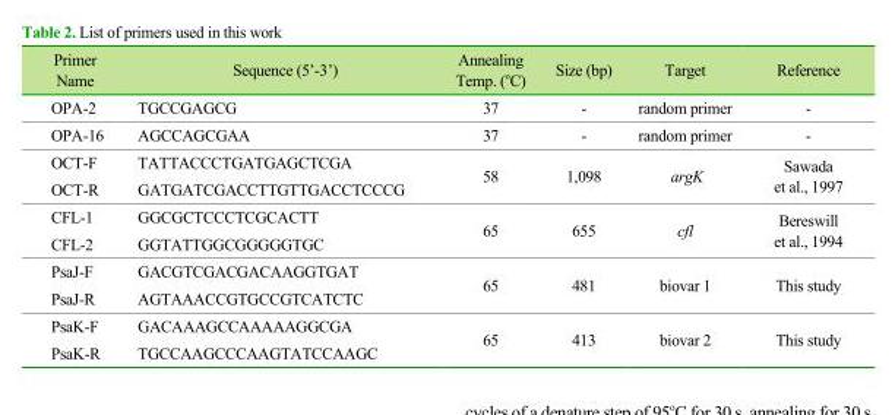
<table><thead><tr><td>Primer Name</td><td>Sequence (5’-3’)</td><td>Annealing Temp. (°C)</td><td>Size (bp)</td><td>Target</td><td>Reference</td></tr></thead><tbody><tr><td>OPA-2</td><td>TGCCGAGCG</td><td>37</td><td>-</td><td>random primer</td><td>-</td></tr><tr><td>OPA-16</td><td>AGCCAGCGAA</td><td>37</td><td>-</td><td>random primer</td><td>-</td></tr><tr><td>OCT-F</td><td>TATTACCCTGATGAGCTCGA</td><td rowspan="2">58</td><td rowspan="2">1,098</td><td rowspan="2">argK</td><td rowspan="2">Sawada et al., 1997</td></tr><tr><td>OCT-R</td><td>GATGATCGACCTTGTTGACCTCCCG</td></tr><tr><td>CFL-1</td><td>GGCGCTCCCTCGCACTT</td><td rowspan="2">65</td><td rowspan="2">655</td><td rowspan="2">cfl</td><td rowspan="2">Bereswill et al., 1994</td></tr><tr><td>CFL-2</td><td>GGTATTGGCGGGGGTGC</td></tr><tr><td>PsaJ-F</td><td>GACGTCGACGACAAGGTGAT</td><td rowspan="2">65</td><td rowspan="2">481</td><td rowspan="2">biovar 1</td><td rowspan="2">This study</td></tr><tr><td>PsaJ-R</td><td>AGTAAACCGTGCCGTCATCTC</td></tr><tr><td>PsaK-F</td><td>GACAAAGCCAAAAAGGCGA</td><td rowspan="2">65</td><td rowspan="2">413</td><td rowspan="2">biovar 2</td><td rowspan="2">This study</td></tr><tr><td>PsaK-R</td><td>TGCCAAGCCCAAGTATCCAAGC</td></tr></tbody></table>